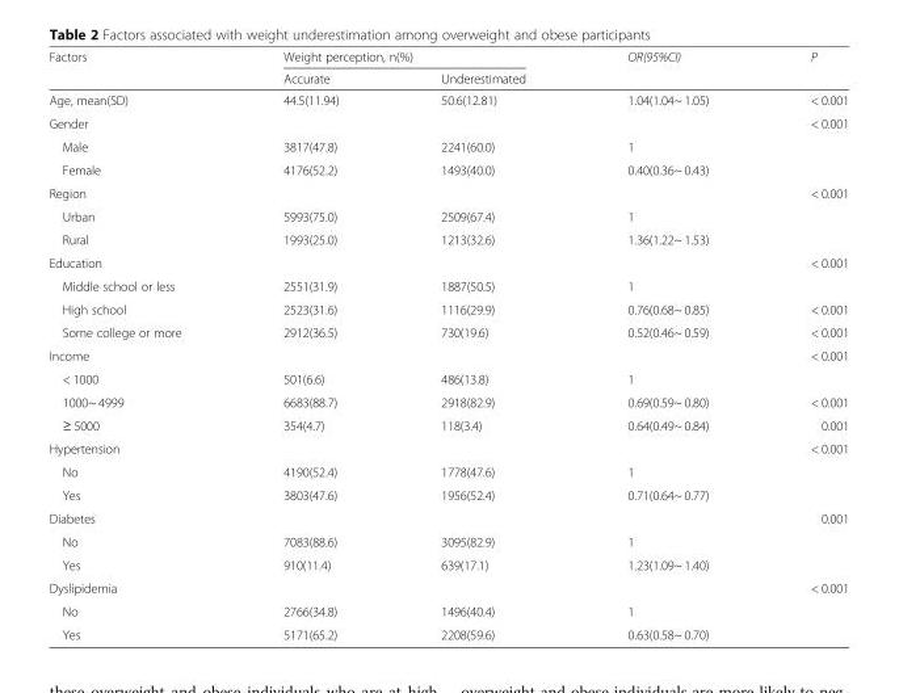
<table><thead><tr><td rowspan="2">Factors</td><td colspan="2">Weight perception, n(%)</td><td rowspan="2">OR(95%CI)</td><td rowspan="2">P</td></tr><tr><td>Accurate</td><td>Underestimated</td></tr></thead><tbody><tr><td>Age, mean(SD)</td><td>44.5(11.94)</td><td>50.6(12.81)</td><td>1.04(1.04~ 1.05)</td><td>&lt; 0.001</td></tr><tr><td>Gender</td><td></td><td></td><td></td><td>&lt; 0.001</td></tr><tr><td>Male</td><td>3817(47.8)</td><td>2241(60.0)</td><td>1</td><td></td></tr><tr><td>Female</td><td>4176(52.2)</td><td>1493(40.0)</td><td>0.40(0.36~ 0.43)</td><td></td></tr><tr><td>Region</td><td></td><td></td><td></td><td>&lt; 0.001</td></tr><tr><td>Urban</td><td>5993(75.0)</td><td>2509(67.4)</td><td>1</td><td></td></tr><tr><td>Rural</td><td>1993(25.0)</td><td>1213(32.6)</td><td>1.36(1.22~ 1.53)</td><td></td></tr><tr><td>Education</td><td></td><td></td><td></td><td>&lt; 0.001</td></tr><tr><td>Middle school or less</td><td>2551(31.9)</td><td>1887(50.5)</td><td>1</td><td></td></tr><tr><td>High school</td><td>2523(31.6)</td><td>1116(29.9)</td><td>0.76(0.68~ 0.85)</td><td>&lt; 0.001</td></tr><tr><td>Some college or more</td><td>2912(36.5)</td><td>730(19.6)</td><td>0.52(0.46~ 0.59)</td><td>&lt; 0.001</td></tr><tr><td>Income</td><td></td><td></td><td></td><td>&lt; 0.001</td></tr><tr><td>&lt; 1000</td><td>501(6.6)</td><td>486(13.8)</td><td>1</td><td></td></tr><tr><td>1000~ 4999</td><td>6683(88.7)</td><td>2918(82.9)</td><td>0.69(0.59~ 0.80)</td><td>&lt; 0.001</td></tr><tr><td>≥ 5000</td><td>354(4.7)</td><td>118(3.4)</td><td>0.64(0.49~ 0.84)</td><td>0.001</td></tr><tr><td>Hypertension</td><td></td><td></td><td></td><td>&lt; 0.001</td></tr><tr><td>No</td><td>4190(52.4)</td><td>1778(47.6)</td><td>1</td><td></td></tr><tr><td>Yes</td><td>3803(47.6)</td><td>1956(52.4)</td><td>0.71(0.64~ 0.77)</td><td></td></tr><tr><td>Diabetes</td><td></td><td></td><td></td><td>0.001</td></tr><tr><td>No</td><td>7083(88.6)</td><td>3095(82.9)</td><td>1</td><td></td></tr><tr><td>Yes</td><td>910(11.4)</td><td>639(17.1)</td><td>1.23(1.09~ 1.40)</td><td></td></tr><tr><td>Dyslipidemia</td><td></td><td></td><td></td><td>&lt; 0.001</td></tr><tr><td>No</td><td>2766(34.8)</td><td>1496(40.4)</td><td>1</td><td></td></tr><tr><td>Yes</td><td>5171(65.2)</td><td>2208(59.6)</td><td>0.63(0.58~ 0.70)</td><td></td></tr></tbody></table>